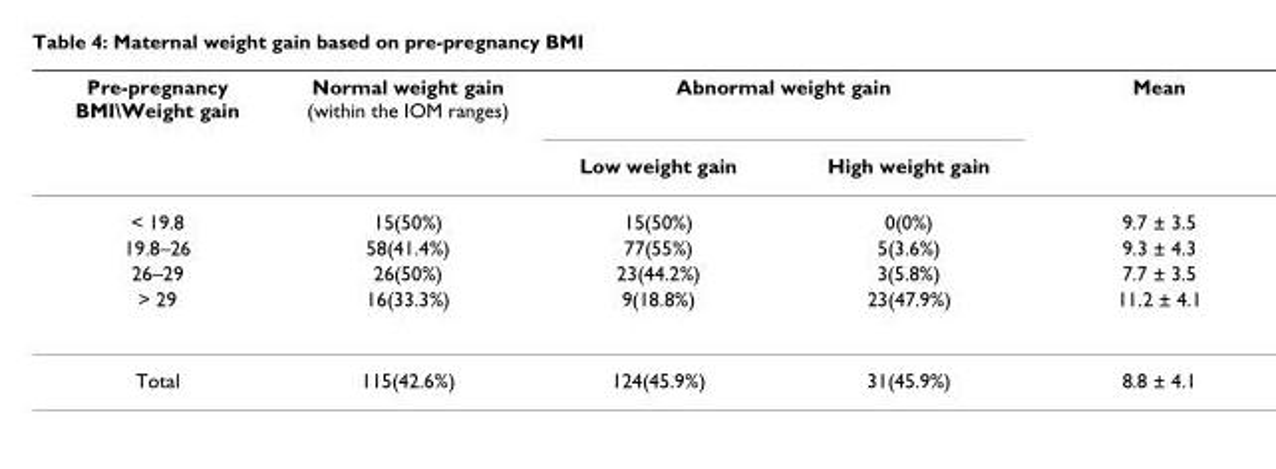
<table><thead><tr><td rowspan="2">Pre-pregnancy BMI\Weight gain</td><td rowspan="2">Normal weight gain (within the IOM ranges)</td><td colspan="2">Abnormal weight gain</td><td rowspan="2">Mean</td></tr><tr><td>Low weight gain</td><td>High weight gain</td></tr></thead><tbody><tr><td>&lt; 19.8</td><td>15(50%)</td><td>15(50%)</td><td>0(0%)</td><td>9.7 ± 3.5</td></tr><tr><td>19.8–26</td><td>58(41.4%)</td><td>77(55%)</td><td>5(3.6%)</td><td>9.3 ± 4.3</td></tr><tr><td>26–29</td><td>26(50%)</td><td>23(44.2%)</td><td>3(5.8%)</td><td>7.7 ± 3.5</td></tr><tr><td>&gt; 29</td><td>16(33.3%)</td><td>9(18.8%)</td><td>23(47.9%)</td><td>11.2 ± 4.1</td></tr><tr><td>Total</td><td>115(42.6%)</td><td>124(45.9%)</td><td>31(45.9%)</td><td>8.8 ± 4.1</td></tr></tbody></table>